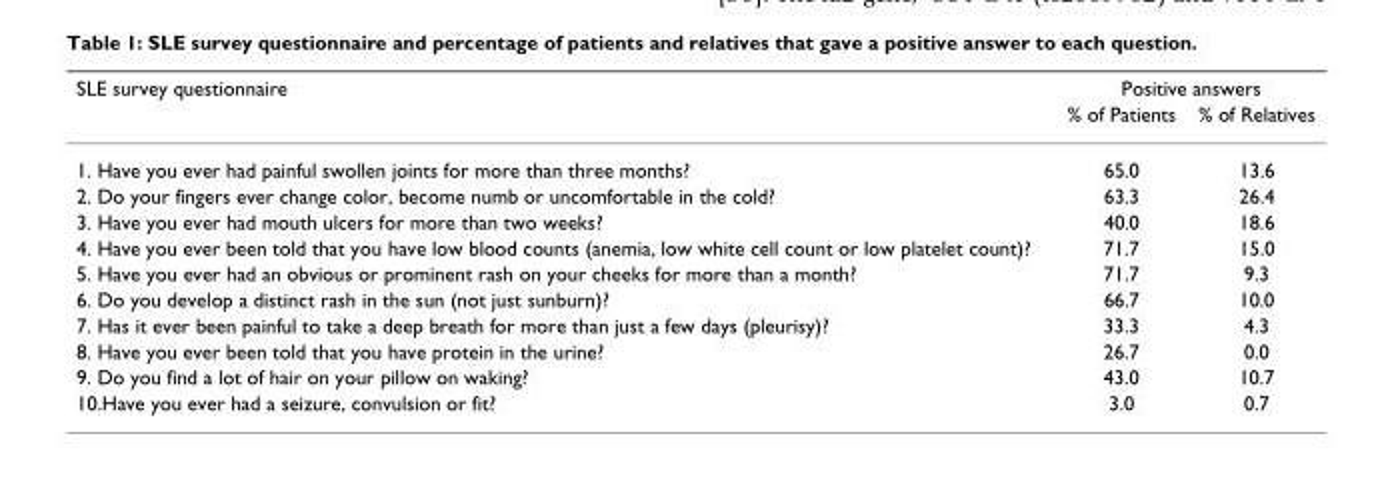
<table><thead><tr><td rowspan="2">SLE survey questionnaire</td><td colspan="2">Positive answers</td></tr><tr><td>% of Patients</td><td>% of Relatives</td></tr></thead><tbody><tr><td>1. Have you ever had painful swollen joints for more than three months?</td><td>65.0</td><td>13.6</td></tr><tr><td>2. Do your fingers ever change color, become numb or uncomfortable in the cold?</td><td>63.3</td><td>26.4</td></tr><tr><td>3. Have you ever had mouth ulcers for more than two weeks?</td><td>40.0</td><td>18.6</td></tr><tr><td>4. Have you ever been told that you have low blood counts (anemia, low white cell count or low platelet count)?</td><td>71.7</td><td>15.0</td></tr><tr><td>5. Have you ever had an obvious or prominent rash on your cheeks for more than a month?</td><td>71.7</td><td>9.3</td></tr><tr><td>6. Do you develop a distinct rash in the sun (not just sunburn)?</td><td>66.7</td><td>10.0</td></tr><tr><td>7. Has it ever been painful to take a deep breath for more than just a few days (pleurisy)?</td><td>33.3</td><td>4.3</td></tr><tr><td>8. Have you ever been told that you have protein in the urine?</td><td>26.7</td><td>0.0</td></tr><tr><td>9. Do you find a lot of hair on your pillow on waking?</td><td>43.0</td><td>10.7</td></tr><tr><td>10.Have you ever had a seizure, convulsion or fit?</td><td>3.0</td><td>0.7</td></tr></tbody></table>